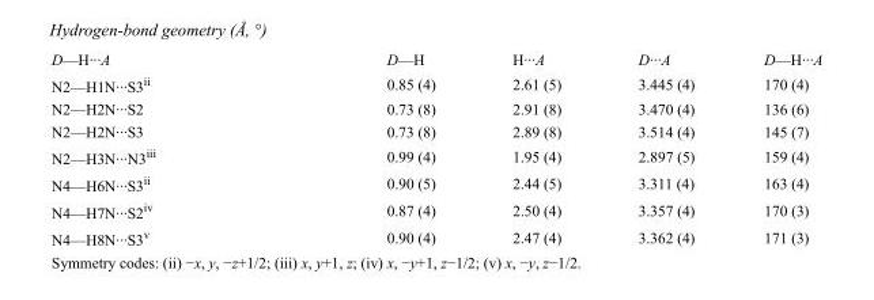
<table><tbody><tr><td>D—H···A</td><td>D—H</td><td>H···A</td><td>D···A</td><td>D—H···A</td></tr><tr><td>N2—H1N···S3<sup>ii</sup></td><td>0.85 (4)</td><td>2.61 (5)</td><td>3.445 (4)</td><td>170 (4)</td></tr><tr><td>N2—H2N···S2</td><td>0.73 (8)</td><td>2.91 (8)</td><td>3.470 (4)</td><td>136 (6)</td></tr><tr><td>N2—H2N···S3</td><td>0.73 (8)</td><td>2.89 (8)</td><td>3.514 (4)</td><td>145 (7)</td></tr><tr><td>N2—H3N···N3<sup>iii</sup></td><td>0.99 (4)</td><td>1.95 (4)</td><td>2.897 (5)</td><td>159 (4)</td></tr><tr><td>N4—H6N···S3<sup>ii</sup></td><td>0.90 (5)</td><td>2.44 (5)</td><td>3.311 (4)</td><td>163 (4)</td></tr><tr><td>N4—H7N···S2<sup>iv</sup></td><td>0.87 (4)</td><td>2.50 (4)</td><td>3.357 (4)</td><td>170 (3)</td></tr><tr><td>N4—H8N···S3<sup>v</sup></td><td>0.90 (4)</td><td>2.47 (4)</td><td>3.362 (4)</td><td>171 (3)</td></tr></tbody></table>